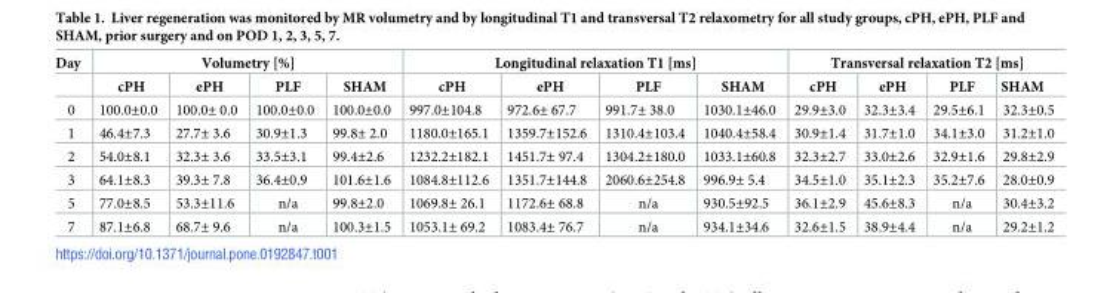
<table><thead><tr><td rowspan="2">Day</td><td colspan="4">Volumetry [%]</td><td colspan="4">Longitudinal relaxation T1 [ms]</td><td colspan="4">Transversal relaxation T2 [ms]</td></tr><tr><td>cPH</td><td>ePH</td><td>PLF</td><td>SHAM</td><td>cPH</td><td>ePH</td><td>PLF</td><td>SHAM</td><td>cPH</td><td>ePH</td><td>PLF</td><td>SHAM</td></tr></thead><tbody><tr><td>0</td><td>100.0±0.0</td><td>100.0± 0.0</td><td>100.0±0.0</td><td>100.0±0.0</td><td>997.0±104.8</td><td>972.6± 67.7</td><td>991.7± 38.0</td><td>1030.1±46.0</td><td>29.9±3.0</td><td>32.3±3.4</td><td>29.5±6.1</td><td>32.3±0.5</td></tr><tr><td>1</td><td>46.4±7.3</td><td>27.7± 3.6</td><td>30.9±1.3</td><td>99.8± 2.0</td><td>1180.0±165.1</td><td>1359.7±152.6</td><td>1310.4±103.4</td><td>1040.4±58.4</td><td>30.9±1.4</td><td>31.7±1.0</td><td>34.1±3.0</td><td>31.2±1.0</td></tr><tr><td>2</td><td>54.0±8.1</td><td>32.3± 3.6</td><td>33.5±3.1</td><td>99.4±2.6</td><td>1232.2±182.1</td><td>1451.7± 97.4</td><td>1304.2±180.0</td><td>1033.1±60.8</td><td>32.3±2.7</td><td>33.0±2.6</td><td>32.9±1.6</td><td>29.8±2.9</td></tr><tr><td>3</td><td>64.1±8.3</td><td>39.3± 7.8</td><td>36.4±0.9</td><td>101.6±1.6</td><td>1084.8±112.6</td><td>1351.7±144.8</td><td>2060.6±254.8</td><td>996.9± 5.4</td><td>34.5±1.0</td><td>35.1±2.3</td><td>35.2±7.6</td><td>28.0±0.9</td></tr><tr><td>5</td><td>77.0±8.5</td><td>53.3±11.6</td><td>n/a</td><td>99.8±2.0</td><td>1069.8± 26.1</td><td>1172.6± 68.8</td><td>n/a</td><td>930.5±92.5</td><td>36.1±2.9</td><td>45.6±8.3</td><td>n/a</td><td>30.4±3.2</td></tr><tr><td>7</td><td>87.1±6.8</td><td>68.7± 9.6</td><td>n/a</td><td>100.3±1.5</td><td>1053.1± 69.2</td><td>1083.4± 76.7</td><td>n/a</td><td>934.1±34.6</td><td>32.6±1.5</td><td>38.9±4.4</td><td>n/a</td><td>29.2±1.2</td></tr></tbody></table>